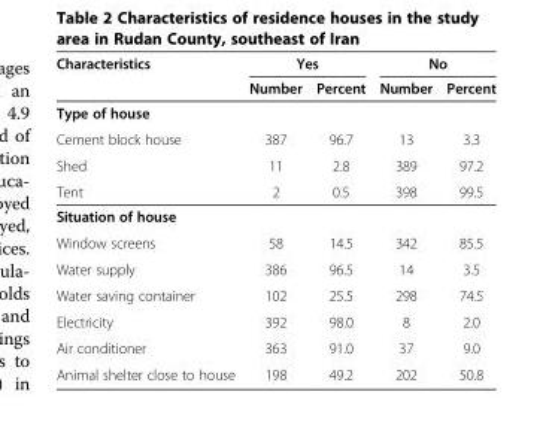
<table><thead><tr><td rowspan="2">Characteristics</td><td colspan="2">Yes</td><td colspan="2">No</td></tr><tr><td>Number</td><td>Percent</td><td>Number</td><td>Percent</td></tr></thead><tbody><tr><td colspan="5">Type of house</td></tr><tr><td>Cement block house</td><td>387</td><td>96.7</td><td>13</td><td>3.3</td></tr><tr><td>Shed</td><td>11</td><td>2.8</td><td>389</td><td>97.2</td></tr><tr><td>Tent</td><td>2</td><td>0.5</td><td>398</td><td>99.5</td></tr><tr><td colspan="5">Situation of house</td></tr><tr><td>Window screens</td><td>58</td><td>14.5</td><td>342</td><td>85.5</td></tr><tr><td>Water supply</td><td>386</td><td>96.5</td><td>14</td><td>3.5</td></tr><tr><td>Water saving container</td><td>102</td><td>25.5</td><td>298</td><td>74.5</td></tr><tr><td>Electricity</td><td>392</td><td>98.0</td><td>8</td><td>2.0</td></tr><tr><td>Air conditioner</td><td>363</td><td>91.0</td><td>37</td><td>9.0</td></tr><tr><td>Animal shelter close to house</td><td>198</td><td>49.2</td><td>202</td><td>50.8</td></tr></tbody></table>